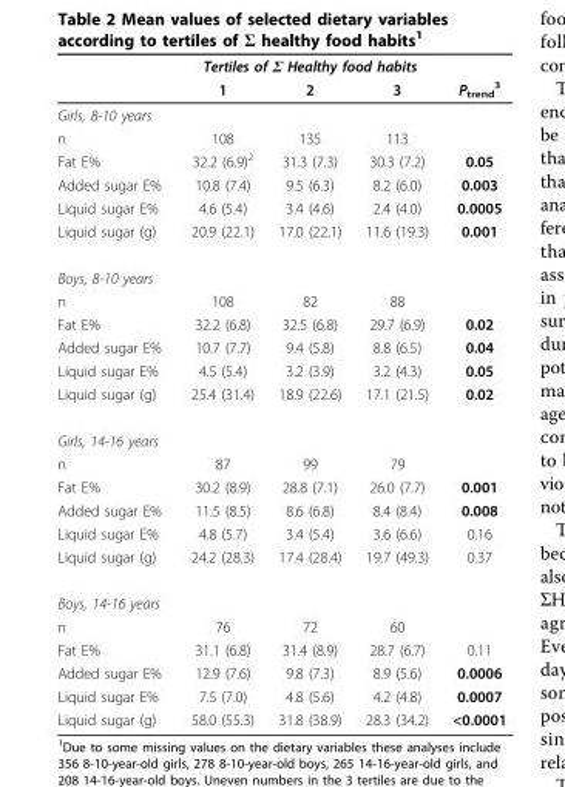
<table><thead><tr><td rowspan="2"></td><td colspan="3">Tertiles of Σ Healthy food habits</td><td rowspan="2">P<sub>trend</sub> <sup>3</sup></td></tr><tr><td>1</td><td>2</td><td>3</td></tr></thead><tbody><tr><td colspan="5">Girls, 8-10 years</td></tr><tr><td>n</td><td>108</td><td>135</td><td>113</td><td></td></tr><tr><td>Fat E%</td><td>32.2 (6.9)<sup>2</sup></td><td>31.3 (7.3)</td><td>30.3 (7.2)</td><td>0.05</td></tr><tr><td>Added sugar E%</td><td>10.8 (7.4)</td><td>9.5 (6.3)</td><td>8.2 (6.0)</td><td>0.003</td></tr><tr><td>Liquid sugar E%</td><td>4.6 (5.4)</td><td>3.4 (4.6)</td><td>2.4 (4.0)</td><td>0.0005</td></tr><tr><td>Liquid sugar (g)</td><td>20.9 (22.1)</td><td>17.0 (22.1)</td><td>11.6 (19.3)</td><td>0.001</td></tr><tr><td colspan="5">Boys, 8-10 years</td></tr><tr><td>n</td><td>108</td><td>82</td><td>88</td><td></td></tr><tr><td>Fat E%</td><td>32.2 (6.8)</td><td>32.5 (6.8)</td><td>29.7 (6.9)</td><td>0.02</td></tr><tr><td>Added sugar E%</td><td>10.7 (7.7)</td><td>9.4 (5.8)</td><td>8.8 (6.5)</td><td>0.04</td></tr><tr><td>Liquid sugar E%</td><td>4.5 (5.4)</td><td>3.2 (3.9)</td><td>3.2 (4.3)</td><td>0.05</td></tr><tr><td>Liquid sugar (g)</td><td>25.4 (31.4)</td><td>18.9 (22.6)</td><td>17.1 (21.5)</td><td>0.02</td></tr><tr><td colspan="5">Girls, 14-16 years</td></tr><tr><td>n</td><td>87</td><td>99</td><td>79</td><td></td></tr><tr><td>Fat E%</td><td>30.2 (8.9)</td><td>28.8 (7.1)</td><td>26.0 (7.7)</td><td>0.001</td></tr><tr><td>Added sugar E%</td><td>11.5 (8.5)</td><td>8.6 (6.8)</td><td>8.4 (8.4)</td><td>0.008</td></tr><tr><td>Liquid sugar E%</td><td>4.8 (5.7)</td><td>3.4 (5.4)</td><td>3.6 (6.6)</td><td>0.16</td></tr><tr><td>Liquid sugar (g)</td><td>24.2 (28.3)</td><td>17.4 (28.4)</td><td>19.7 (49.3)</td><td>0.37</td></tr><tr><td colspan="5">Boys, 14-16 years</td></tr><tr><td>n</td><td>76</td><td>72</td><td>60</td><td></td></tr><tr><td>Fat E%</td><td>31.1 (6.8)</td><td>31.4 (8.9)</td><td>28.7 (6.7)</td><td>0.11</td></tr><tr><td>Added sugar E%</td><td>12.9 (7.6)</td><td>9.8 (7.3)</td><td>8.9 (5.6)</td><td>0.0006</td></tr><tr><td>Liquid sugar E%</td><td>7.5 (7.0)</td><td>4.8 (5.6)</td><td>4.2 (4.8)</td><td>0.0007</td></tr><tr><td>Liquid sugar (g)</td><td>58.0 (55.3)</td><td>31.8 (38.9)</td><td>28.3 (34.2)</td><td>&lt;0.0001</td></tr></tbody></table>